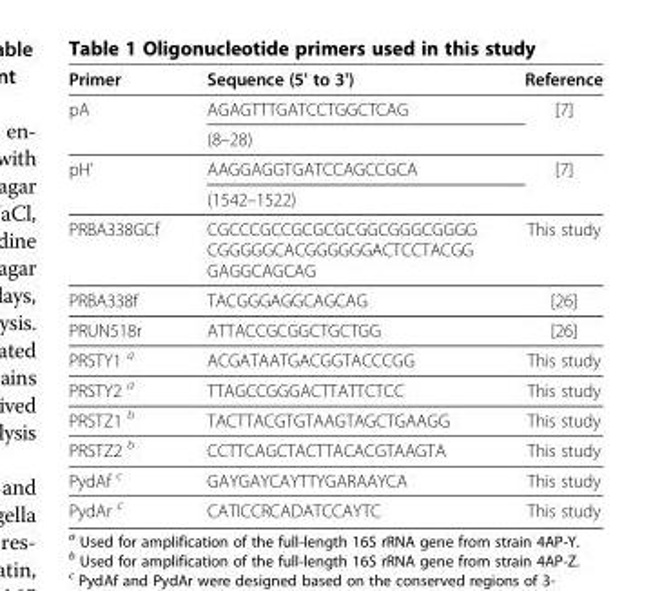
<table><thead><tr><td>Primer</td><td>Sequence (5&#x27; to 3&#x27;)</td><td>Reference</td></tr></thead><tbody><tr><td rowspan="2">pA</td><td>AGAGTTTGATCCTGGCTCAG</td><td rowspan="2">[7]</td></tr><tr><td>(8–28)</td></tr><tr><td rowspan="2">pH’</td><td>AAGGAGGTGATCCAGCCGCA</td><td rowspan="2">[7]</td></tr><tr><td>(1542–1522)</td></tr><tr><td>PRBA338GCf</td><td>CGCCCGCCGCGCGCGGCGGGCGGGG CGGGGGCACGGGGGGACTCCTACGG GAGGCAGCAG</td><td>This study</td></tr><tr><td>PRBA338f</td><td>TACGGGAGGCAGCAG</td><td>[26]</td></tr><tr><td>PRUN518r</td><td>ATTACCGCGGCTGCTGG</td><td>[26]</td></tr><tr><td>PRSTY1 <sup>a</sup></td><td>ACGATAATGACGGTACCCGG</td><td>This study</td></tr><tr><td>PRSTY2 <sup>a</sup></td><td>TTAGCCGGGACTTATTCTCC</td><td>This study</td></tr><tr><td>PRSTZ1 <sup>b</sup></td><td>TACTTACGTGTAAGTAGCTGAAGG</td><td>This study</td></tr><tr><td>PRSTZ2 <sup>b</sup></td><td>CCTTCAGCTACTTACACGTAAGTA</td><td>This study</td></tr><tr><td>PydAf <sup>c</sup></td><td>GAYGAYCAYTTYGARAAYCA</td><td>This study</td></tr><tr><td>PydAr <sup>c</sup></td><td>CATICCRCADATCCAYTC</td><td>This study</td></tr></tbody></table>